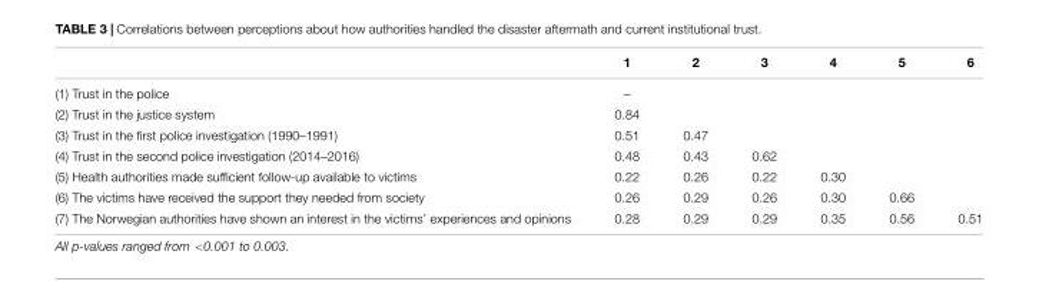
<table><thead><tr><td></td><td>1</td><td>2</td><td>3</td><td>4</td><td>5</td><td>6</td></tr></thead><tbody><tr><td>(1) Trust in the police</td><td>–</td><td></td><td></td><td></td><td></td><td></td></tr><tr><td>(2) Trust in the justice system</td><td>0.84</td><td></td><td></td><td></td><td></td><td></td></tr><tr><td>(3) Trust in the first police investigation (1990–1991)</td><td>0.51</td><td>0.47</td><td></td><td></td><td></td><td></td></tr><tr><td>(4) Trust in the second police investigation (2014–2016)</td><td>0.48</td><td>0.43</td><td>0.62</td><td></td><td></td><td></td></tr><tr><td>(5) Health authorities made sufficient follow-up available to victims</td><td>0.22</td><td>0.26</td><td>0.22</td><td>0.30</td><td></td><td></td></tr><tr><td>(6) The victims have received the support they needed from society</td><td>0.26</td><td>0.29</td><td>0.26</td><td>0.30</td><td>0.66</td><td></td></tr><tr><td>(7) The Norwegian authorities have shown an interest in the victims’ experiences and opinions</td><td>0.28</td><td>0.29</td><td>0.29</td><td>0.35</td><td>0.56</td><td>0.51</td></tr></tbody></table>